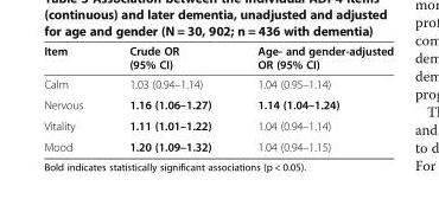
<table><thead><tr><td>Item</td><td>Crude OR (95% CI)</td><td>Age- and gender-adjusted OR (95% CI)</td></tr></thead><tbody><tr><td>Calm</td><td>1.03 (0.94–1.14)</td><td>1.04 (0.95–1.14)</td></tr><tr><td>Nervous</td><td>1.16 (1.06–1.27)</td><td>1.14 (1.04–1.24)</td></tr><tr><td>Vitality</td><td>1.11 (1.01–1.22)</td><td>1.04 (0.94–1.14)</td></tr><tr><td>Mood</td><td>1.20 (1.09–1.32)</td><td>1.04 (0.94–1.15)</td></tr></tbody></table>